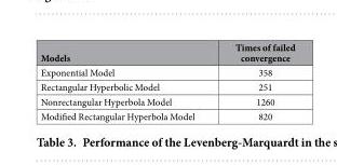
<table><thead><tr><td>Models</td><td>Times of failed convergence</td></tr></thead><tbody><tr><td>Exponential Model</td><td>358</td></tr><tr><td>Rectangular Hyperbolic Model</td><td>251</td></tr><tr><td>Nonrectangular Hyperbola Model</td><td>1260</td></tr><tr><td>Modified Rectangular Hyperbola Model</td><td>820</td></tr></tbody></table>